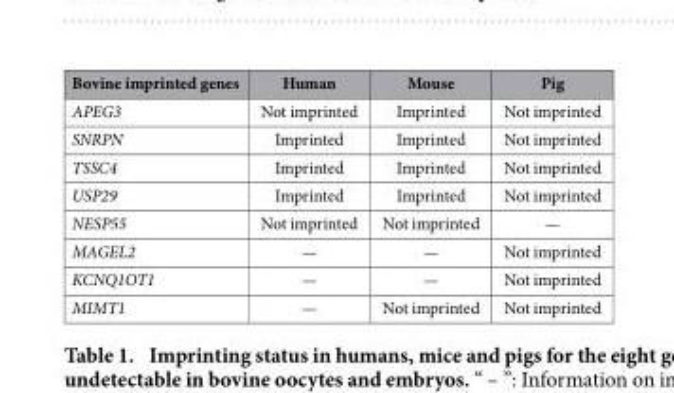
<table><thead><tr><td>Bovine imprinted genes</td><td>Human</td><td>Mouse</td><td>Pig</td></tr></thead><tbody><tr><td>APEG3</td><td>Not imprinted</td><td>Imprinted</td><td>Not imprinted</td></tr><tr><td>SNRPN</td><td>Imprinted</td><td>Imprinted</td><td>Not imprinted</td></tr><tr><td>TSSC4</td><td>Imprinted</td><td>Imprinted</td><td>Not imprinted</td></tr><tr><td>USP29</td><td>Imprinted</td><td>Imprinted</td><td>Not imprinted</td></tr><tr><td>NESP55</td><td>Not imprinted</td><td>Not imprinted</td><td>—</td></tr><tr><td>MAGEL2</td><td>—</td><td>—</td><td>Not imprinted</td></tr><tr><td>KCNQ1OT1</td><td>—</td><td>—</td><td>Not imprinted</td></tr><tr><td>MIMT1</td><td>—</td><td>Not imprinted</td><td>Not imprinted</td></tr></tbody></table>